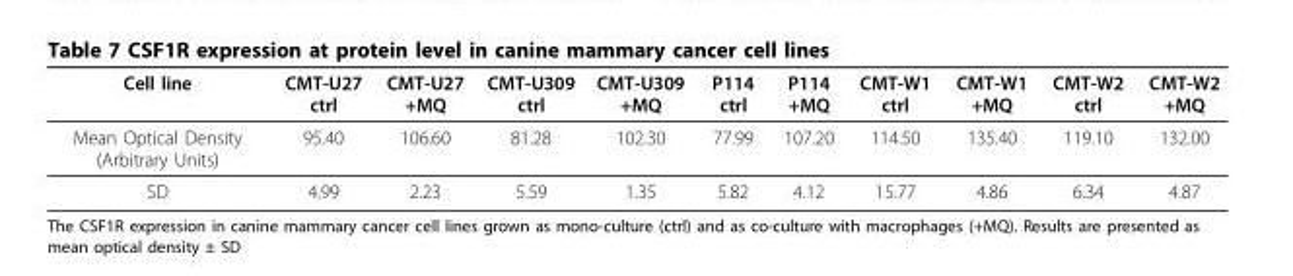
<table><thead><tr><td>Cell line</td><td>CMT-U27 ctrl</td><td>CMT-U27 +MQ</td><td>CMT-U309 ctrl</td><td>CMT-U309 +MQ</td><td>P114 ctrl</td><td>P114 +MQ</td><td>CMT-W1 ctrl</td><td>CMT-W1 +MQ</td><td>CMT-W2 ctrl</td><td>CMT-W2 +MQ</td></tr></thead><tbody><tr><td>Mean Optical Density (Arbitrary Units)</td><td>95.40</td><td>106.60</td><td>81.28</td><td>102.30</td><td>77.99</td><td>107.20</td><td>114.50</td><td>135.40</td><td>119.10</td><td>132.00</td></tr><tr><td>SD</td><td>4.99</td><td>2.23</td><td>5.59</td><td>1.35</td><td>5.82</td><td>4.12</td><td>15.77</td><td>4.86</td><td>6.34</td><td>4.87</td></tr></tbody></table>